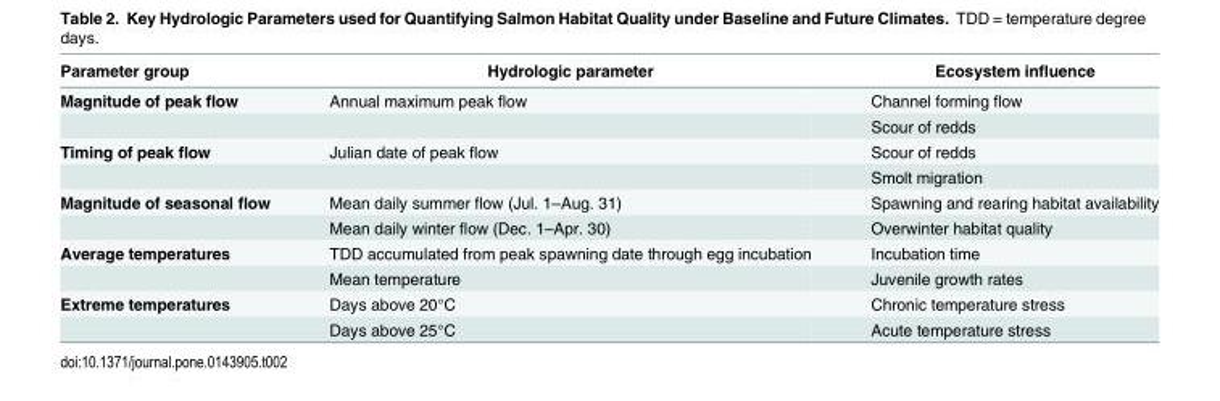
<table><thead><tr><td>Parameter group</td><td>Hydrologic parameter</td><td>Ecosystem influence</td></tr></thead><tbody><tr><td rowspan="2">Magnitude of peak flow</td><td>Annual maximum peak flow</td><td>Channel forming flow</td></tr><tr><td></td><td>Scour of redds</td></tr><tr><td rowspan="2">Timing of peak flow</td><td>Julian date of peak flow</td><td>Scour of redds</td></tr><tr><td></td><td>Smolt migration</td></tr><tr><td rowspan="2">Magnitude of seasonal flow</td><td>Mean daily summer flow (Jul. 1–Aug. 31)</td><td>Spawning and rearing habitat availability</td></tr><tr><td>Mean daily winter flow (Dec. 1–Apr. 30)</td><td>Overwinter habitat quality</td></tr><tr><td rowspan="2">Average temperatures</td><td>TDD accumulated from peak spawning date through egg incubation</td><td>Incubation time</td></tr><tr><td>Mean temperature</td><td>Juvenile growth rates</td></tr><tr><td rowspan="2">Extreme temperatures</td><td>Days above 20°C</td><td>Chronic temperature stress</td></tr><tr><td>Days above 25°C</td><td>Acute temperature stress</td></tr></tbody></table>